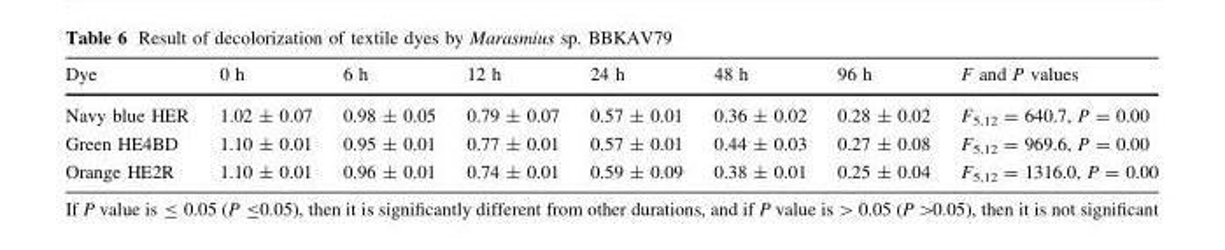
<table><thead><tr><td>Dye</td><td>0 h</td><td>6 h</td><td>12 h</td><td>24 h</td><td>48 h</td><td>96 h</td><td>F and P values</td></tr></thead><tbody><tr><td>Navy blue HER</td><td>1.02 ± 0.07</td><td>0.98 ± 0.05</td><td>0.79 ± 0.07</td><td>0.57 ± 0.01</td><td>0.36 ± 0.02</td><td>0.28 ± 0.02</td><td>F<sub>5,12</sub> = 640.7, P = 0.00</td></tr><tr><td>Green HE4BD</td><td>1.10 ± 0.01</td><td>0.95 ± 0.01</td><td>0.77 ± 0.01</td><td>0.57 ± 0.01</td><td>0.44 ± 0.03</td><td>0.27 ± 0.08</td><td>F<sub>5,12</sub> = 969.6, P = 0.00</td></tr><tr><td>Orange HE2R</td><td>1.10 ± 0.01</td><td>0.96 ± 0.01</td><td>0.74 ± 0.01</td><td>0.59 ± 0.09</td><td>0.38 ± 0.01</td><td>0.25 ± 0.04</td><td>F<sub>5,12</sub> = 1316.0, P = 0.00</td></tr></tbody></table>